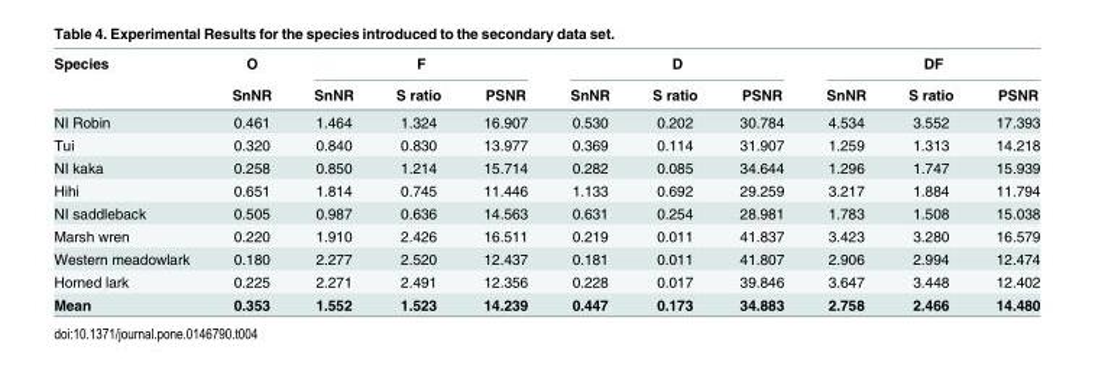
<table><thead><tr><td rowspan="2">Species</td><td rowspan="2">O SnNR</td><td colspan="3">F</td><td colspan="3">D</td><td colspan="3">DF</td></tr><tr><td>SnNR</td><td>S ratio</td><td>PSNR</td><td>SnNR</td><td>S ratio</td><td>PSNR</td><td>SnNR</td><td>S ratio</td><td>PSNR</td></tr></thead><tbody><tr><td>NI Robin</td><td>0.461</td><td>1.464</td><td>1.324</td><td>16.907</td><td>0.530</td><td>0.202</td><td>30.784</td><td>4.534</td><td>3.552</td><td>17.393</td></tr><tr><td>Tui</td><td>0.320</td><td>0.840</td><td>0.830</td><td>13.977</td><td>0.369</td><td>0.114</td><td>31.907</td><td>1.259</td><td>1.313</td><td>14.218</td></tr><tr><td>NI kaka</td><td>0.258</td><td>0.850</td><td>1.214</td><td>15.714</td><td>0.282</td><td>0.085</td><td>34.644</td><td>1.296</td><td>1.747</td><td>15.939</td></tr><tr><td>Hihi</td><td>0.651</td><td>1.814</td><td>0.745</td><td>11.446</td><td>1.133</td><td>0.692</td><td>29.259</td><td>3.217</td><td>1.884</td><td>11.794</td></tr><tr><td>NI saddleback</td><td>0.505</td><td>0.987</td><td>0.636</td><td>14.563</td><td>0.631</td><td>0.254</td><td>28.981</td><td>1.783</td><td>1.508</td><td>15.038</td></tr><tr><td>Marsh wren</td><td>0.220</td><td>1.910</td><td>2.426</td><td>16.511</td><td>0.219</td><td>0.011</td><td>41.837</td><td>3.423</td><td>3.280</td><td>16.579</td></tr><tr><td>Western meadowlark</td><td>0.180</td><td>2.277</td><td>2.520</td><td>12.437</td><td>0.181</td><td>0.011</td><td>41.807</td><td>2.906</td><td>2.994</td><td>12.474</td></tr><tr><td>Horned lark</td><td>0.225</td><td>2.271</td><td>2.491</td><td>12.356</td><td>0.228</td><td>0.017</td><td>39.846</td><td>3.647</td><td>3.448</td><td>12.402</td></tr><tr><td>Mean</td><td>0.353</td><td>1.552</td><td>1.523</td><td>14.239</td><td>0.447</td><td>0.173</td><td>34.883</td><td>2.758</td><td>2.466</td><td>14.480</td></tr></tbody></table>